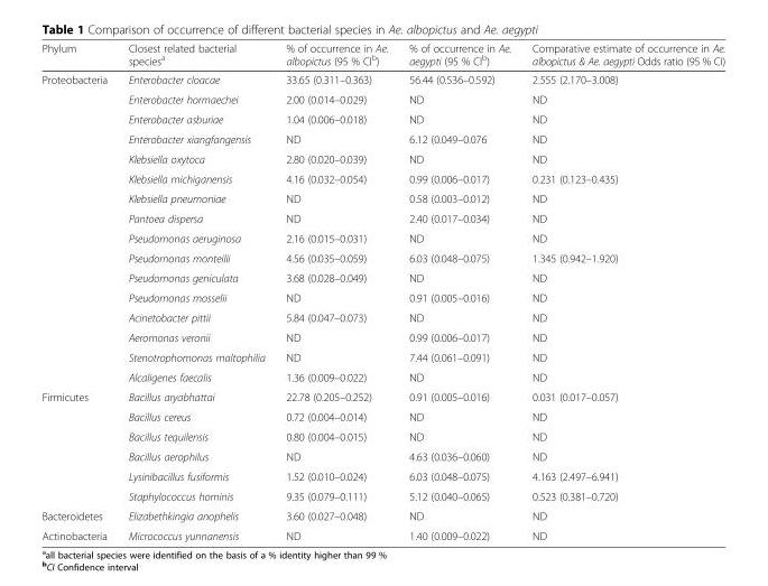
<table><thead><tr><td>Phylum</td><td>Closest related bacterial species<sup>a</sup></td><td>% of occurrence in Ae. albopictus (95 % CI<sup>b</sup>)</td><td>% of occurrence in Ae. aegypti (95 % CI<sup>b</sup>)</td><td>Comparative estimate of occurrence in Ae. albopictus &amp; Ae. aegypti Odds ratio (95 % CI)</td></tr></thead><tbody><tr><td rowspan="16">Proteobacteria</td><td>Enterobacter cloacae</td><td>33.65 (0.311–0.363)</td><td>56.44 (0.536–0.592)</td><td>2.555 (2.170–3.008)</td></tr><tr><td>Enterobacter hormaechei</td><td>2.00 (0.014–0.029)</td><td>ND</td><td>ND</td></tr><tr><td>Enterobacter asburiae</td><td>1.04 (0.006–0.018)</td><td>ND</td><td>ND</td></tr><tr><td>Enterobacter xiangfangensis</td><td>ND</td><td>6.12 (0.049–0.076</td><td>ND</td></tr><tr><td>Klebsiella oxytoca</td><td>2.80 (0.020–0.039)</td><td>ND</td><td>ND</td></tr><tr><td>Klebsiella michiganensis</td><td>4.16 (0.032–0.054)</td><td>0.99 (0.006–0.017)</td><td>0.231 (0.123–0.435)</td></tr><tr><td>Klebsiella pneumoniae</td><td>ND</td><td>0.58 (0.003–0.012)</td><td>ND</td></tr><tr><td>Pantoea dispersa</td><td>ND</td><td>2.40 (0.017–0.034)</td><td>ND</td></tr><tr><td>Pseudomonas aeruginosa</td><td>2.16 (0.015–0.031)</td><td>ND</td><td>ND</td></tr><tr><td>Pseudomonas monteilii</td><td>4.56 (0.035–0.059)</td><td>6.03 (0.048–0.075)</td><td>1.345 (0.942–1.920)</td></tr><tr><td>Pseudomonas geniculata</td><td>3.68 (0.028–0.049)</td><td>ND</td><td>ND</td></tr><tr><td>Pseudomonas mosselii</td><td>ND</td><td>0.91 (0.005–0.016)</td><td>ND</td></tr><tr><td>Acinetobacter pittii</td><td>5.84 (0.047–0.073)</td><td>ND</td><td>ND</td></tr><tr><td>Aeromonas veronii</td><td>ND</td><td>0.99 (0.006–0.017)</td><td>ND</td></tr><tr><td>Stenotrophomonas maltophilia</td><td>ND</td><td>7.44 (0.061–0.091)</td><td>ND</td></tr><tr><td>Alcaligenes faecalis</td><td>1.36 (0.009–0.022)</td><td>ND</td><td>ND</td></tr><tr><td rowspan="6">Firmicutes</td><td>Bacillus aryabhattai</td><td>22.78 (0.205–0.252)</td><td>0.91 (0.005–0.016)</td><td>0.031 (0.017–0.057)</td></tr><tr><td>Bacillus cereus</td><td>0.72 (0.004–0.014)</td><td>ND</td><td>ND</td></tr><tr><td>Bacillus tequilensis</td><td>0.80 (0.004–0.015)</td><td>ND</td><td>ND</td></tr><tr><td>Bacillus aerophilus</td><td>ND</td><td>4.63 (0.036–0.060)</td><td>ND</td></tr><tr><td>Lysinibacillus fusiformis</td><td>1.52 (0.010–0.024)</td><td>6.03 (0.048–0.075)</td><td>4.163 (2.497–6.941)</td></tr><tr><td>Staphylococcus hominis</td><td>9.35 (0.079–0.111)</td><td>5.12 (0.040–0.065)</td><td>0.523 (0.381–0.720)</td></tr><tr><td>Bacteroidetes</td><td>Elizabethkingia anophelis</td><td>3.60 (0.027–0.048)</td><td>ND</td><td>ND</td></tr><tr><td>Actinobacteria</td><td>Micrococcus yunnanensis</td><td>ND</td><td>1.40 (0.009–0.022)</td><td>ND</td></tr></tbody></table>